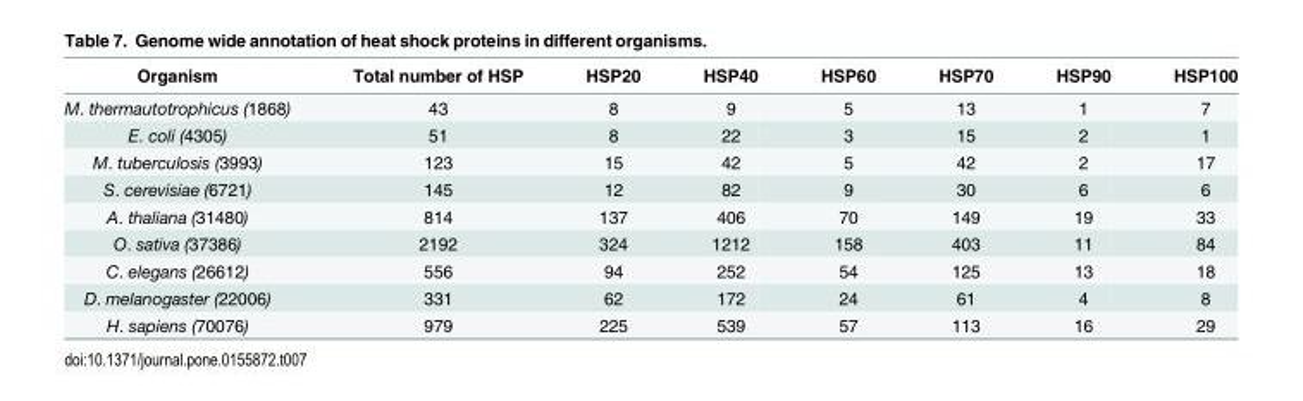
<table><thead><tr><td>Organism</td><td>Total number of HSP</td><td>HSP20</td><td>HSP40</td><td>HSP60</td><td>HSP70</td><td>HSP90</td><td>HSP100</td></tr></thead><tbody><tr><td>M. thermautotrophicus (1868)</td><td>43</td><td>8</td><td>9</td><td>5</td><td>13</td><td>1</td><td>7</td></tr><tr><td>E. coli (4305)</td><td>51</td><td>8</td><td>22</td><td>3</td><td>15</td><td>2</td><td>1</td></tr><tr><td>M. tuberculosis (3993)</td><td>123</td><td>15</td><td>42</td><td>5</td><td>42</td><td>2</td><td>17</td></tr><tr><td>S. cerevisiae (6721)</td><td>145</td><td>12</td><td>82</td><td>9</td><td>30</td><td>6</td><td>6</td></tr><tr><td>A. thaliana (31480)</td><td>814</td><td>137</td><td>406</td><td>70</td><td>149</td><td>19</td><td>33</td></tr><tr><td>O. sativa (37386)</td><td>2192</td><td>324</td><td>1212</td><td>158</td><td>403</td><td>11</td><td>84</td></tr><tr><td>C. elegans (26612)</td><td>556</td><td>94</td><td>252</td><td>54</td><td>125</td><td>13</td><td>18</td></tr><tr><td>D. melanogaster (22006)</td><td>331</td><td>62</td><td>172</td><td>24</td><td>61</td><td>4</td><td>8</td></tr><tr><td>H. sapiens (70076)</td><td>979</td><td>225</td><td>539</td><td>57</td><td>113</td><td>16</td><td>29</td></tr></tbody></table>